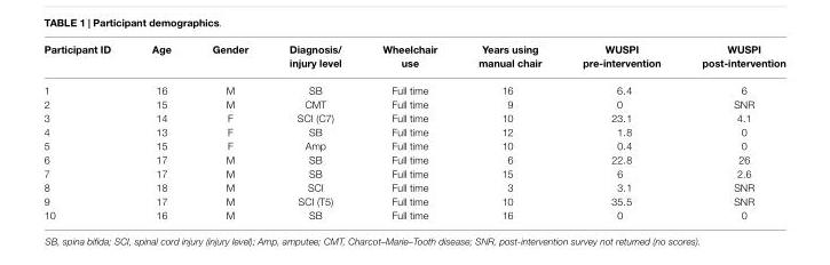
<table><thead><tr><td>Participant ID</td><td>Age</td><td>Gender</td><td>Diagnosis/ injury level</td><td>Wheelchair use</td><td>Years using manual chair</td><td>WUSPI pre-intervention</td><td>WUSPI post-intervention</td></tr></thead><tbody><tr><td>1</td><td>16</td><td>M</td><td>SB</td><td>Full time</td><td>16</td><td>6.4</td><td>6</td></tr><tr><td>2</td><td>15</td><td>M</td><td>CMT</td><td>Full time</td><td>9</td><td>0</td><td>SNR</td></tr><tr><td>3</td><td>14</td><td>F</td><td>SCI (C7)</td><td>Full time</td><td>10</td><td>23.1</td><td>4.1</td></tr><tr><td>4</td><td>13</td><td>F</td><td>SB</td><td>Full time</td><td>12</td><td>1.8</td><td>0</td></tr><tr><td>5</td><td>15</td><td>F</td><td>Amp</td><td>Full time</td><td>10</td><td>0.4</td><td>0</td></tr><tr><td>6</td><td>17</td><td>M</td><td>SB</td><td>Full time</td><td>6</td><td>22.8</td><td>26</td></tr><tr><td>7</td><td>17</td><td>M</td><td>SB</td><td>Full time</td><td>15</td><td>6</td><td>2.6</td></tr><tr><td>8</td><td>18</td><td>M</td><td>SCI</td><td>Full time</td><td>3</td><td>3.1</td><td>SNR</td></tr><tr><td>9</td><td>17</td><td>M</td><td>SCI (T5)</td><td>Full time</td><td>10</td><td>35.5</td><td>SNR</td></tr><tr><td>10</td><td>16</td><td>M</td><td>SB</td><td>Full time</td><td>16</td><td>0</td><td>0</td></tr></tbody></table>